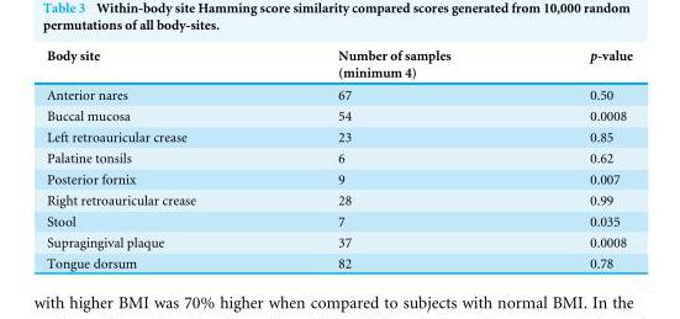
<table><thead><tr><td>Body site</td><td>Number of samples (minimum 4)</td><td>p-value</td></tr></thead><tbody><tr><td>Anterior nares</td><td>67</td><td>0.50</td></tr><tr><td>Buccal mucosa</td><td>54</td><td>0.0008</td></tr><tr><td>Left retroauricular crease</td><td>23</td><td>0.85</td></tr><tr><td>Palatine tonsils</td><td>6</td><td>0.62</td></tr><tr><td>Posterior fornix</td><td>9</td><td>0.007</td></tr><tr><td>Right retroauricular crease</td><td>28</td><td>0.99</td></tr><tr><td>Stool</td><td>7</td><td>0.035</td></tr><tr><td>Supragingival plaque</td><td>37</td><td>0.0008</td></tr><tr><td>Tongue dorsum</td><td>82</td><td>0.78</td></tr></tbody></table>